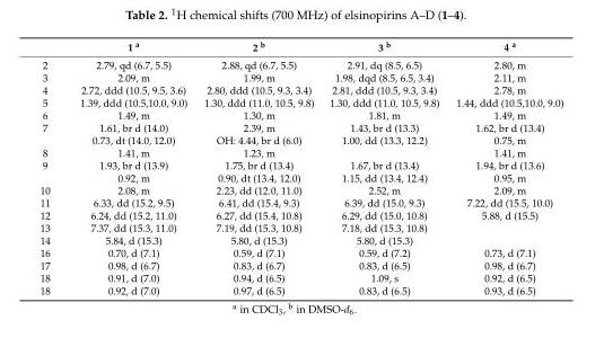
<table><thead><tr><td></td><td>1 <sup>a</sup></td><td>2 <sup>b</sup></td><td>3 <sup>b</sup></td><td>4 <sup>a</sup></td></tr></thead><tbody><tr><td>2</td><td>2.79, qd (6.7, 5.5)</td><td>2.88, qd (6.7, 5.5)</td><td>2.91, dq (8.5, 6.5)</td><td>2.80, m</td></tr><tr><td>3</td><td>2.09, m</td><td>1.99, m</td><td>1.98, dqd (8.5, 6.5, 3.4)</td><td>2.11, m</td></tr><tr><td>4</td><td>2.72, ddd (10.5, 9.5, 3.6)</td><td>2.80, ddd (10.5, 9.3, 3.4)</td><td>2.81, ddd (10.5, 9.3, 3.4)</td><td>2.78, m</td></tr><tr><td>5</td><td>1.39, ddd (10.5,10.0, 9.0)</td><td>1.30, ddd (11.0, 10.5, 9.8)</td><td>1.30, ddd (11.0, 10.5, 9.8)</td><td>1.44, ddd (10.5,10.0, 9.0)</td></tr><tr><td>6</td><td>1.49, m</td><td>1.30, m</td><td>1.81, m</td><td>1.49, m</td></tr><tr><td rowspan="2">7</td><td>1.61, br d (14.0)</td><td>2.39, m</td><td>1.43, br d (13.3)</td><td>1.62, br d (13.4)</td></tr><tr><td>0.73, dt (14.0, 12.0)</td><td>OH: 4.44, br d (6.0)</td><td>1.00, dd (13.3, 12.2)</td><td>0.75, m</td></tr><tr><td>8</td><td>1.41, m</td><td>1.23, m</td><td></td><td>1.41, m</td></tr><tr><td rowspan="2">9</td><td>1.93, br d (13.9)</td><td>1.75, br d (13.4)</td><td>1.67, br d (13.4)</td><td>1.94, br d (13.6)</td></tr><tr><td>0.92, m</td><td>0.90, dt (13.4, 12.0)</td><td>1.15, dd (13.4, 12.4)</td><td>0.95, m</td></tr><tr><td>10</td><td>2.08, m</td><td>2.23, dd (12.0, 11.0)</td><td>2.52, m</td><td>2.09, m</td></tr><tr><td>11</td><td>6.33, dd (15.2, 9.5)</td><td>6.41, dd (15.4, 9.3)</td><td>6.39, dd (15.0, 9.3)</td><td>7.22, dd (15.5, 10.0)</td></tr><tr><td>12</td><td>6.24, dd (15.2, 11.0)</td><td>6.27, dd (15.4, 10.8)</td><td>6.29, dd (15.0, 10.8)</td><td>5.88, d (15.5)</td></tr><tr><td>13</td><td>7.37, dd (15.3, 11.0)</td><td>7.19, dd (15.3, 10.8)</td><td>7.18, dd (15.3, 10.8)</td><td></td></tr><tr><td>14</td><td>5.84, d (15.3)</td><td>5.80, d (15.3)</td><td>5.80, d (15.3)</td><td></td></tr><tr><td>16</td><td>0.70, d (7.1)</td><td>0.59, d (7.1)</td><td>0.59, d (7.2)</td><td>0.73, d (7.1)</td></tr><tr><td>17</td><td>0.98, d (6.7)</td><td>0.83, d (6.7)</td><td>0.83, d (6.5)</td><td>0.98, d (6.7)</td></tr><tr><td>18</td><td>0.91, d (7.0)</td><td>0.94, d (6.5)</td><td>1.09, s</td><td>0.92, d (6.5)</td></tr><tr><td>18</td><td>0.92, d (7.0)</td><td>0.97, d (6.5)</td><td>0.83, d (6.5)</td><td>0.93, d (6.5)</td></tr></tbody></table>